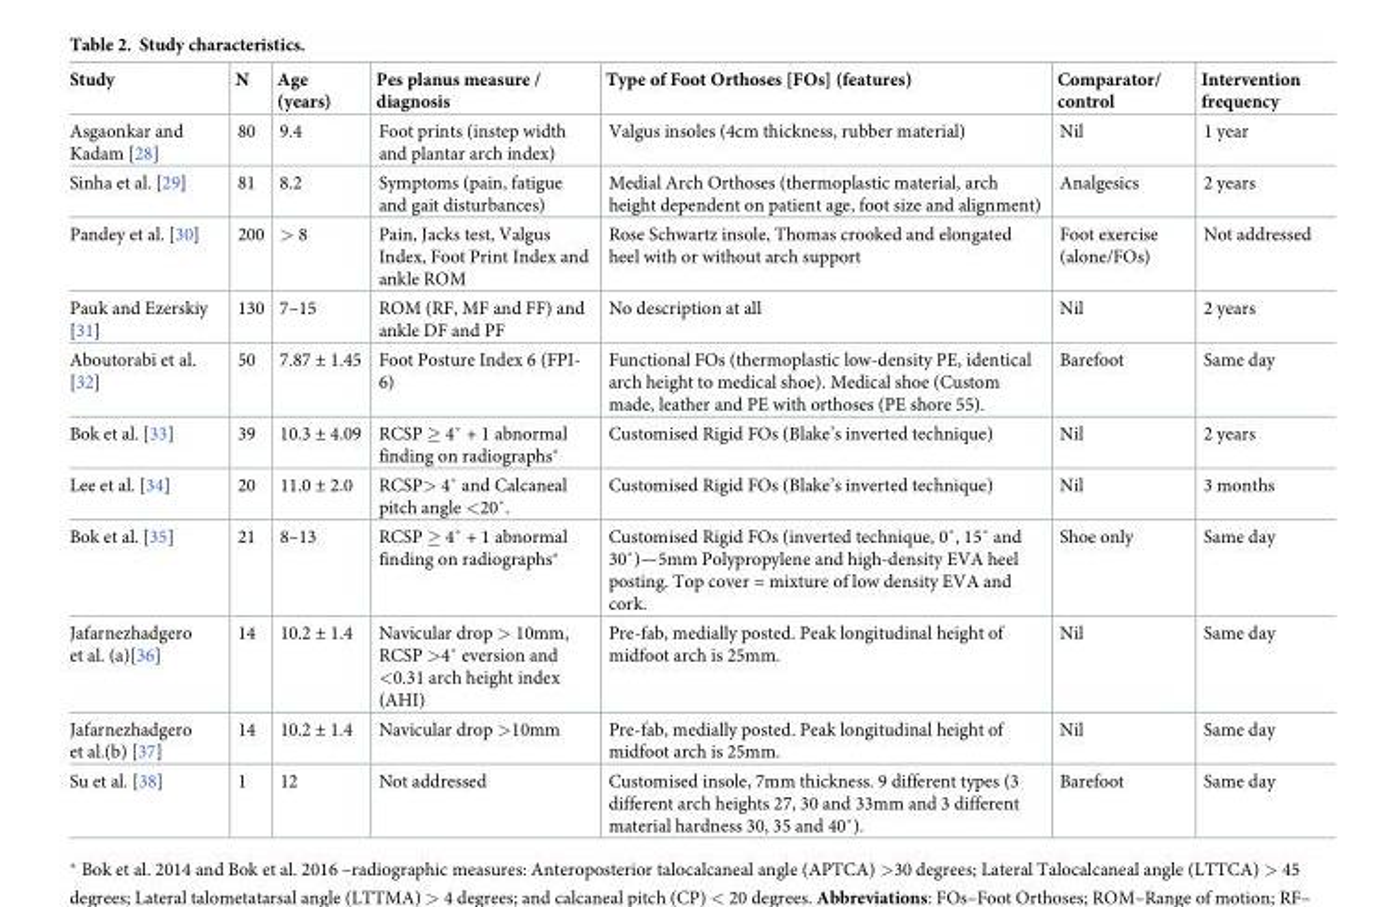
<table><thead><tr><td>Study</td><td>N</td><td>Age (years)</td><td>Pes planus measure / diagnosis</td><td>Type of Foot Orthoses [FOs] (features)</td><td>Comparator/ control</td><td>Intervention frequency</td></tr></thead><tbody><tr><td>Asgaonkar and Kadam [28]</td><td>80</td><td>9.4</td><td>Foot prints (instep width and plantar arch index)</td><td>Valgus insoles (4cm thickness, rubber material)</td><td>Nil</td><td>1 year</td></tr><tr><td>Sinha et al. [29]</td><td>81</td><td>8.2</td><td>Symptoms (pain, fatigue and gait disturbances)</td><td>Medial Arch Orthoses (thermoplastic material, arch height dependent on patient age, foot size and alignment)</td><td>Analgesics</td><td>2 years</td></tr><tr><td>Pandey et al. [30]</td><td>200</td><td>&gt; 8</td><td>Pain, Jacks test, Valgus Index, Foot Print Index and ankle ROM</td><td>Rose Schwartz insole, Thomas crooked and elongated heel with or without arch support</td><td>Foot exercise (alone/FOs)</td><td>Not addressed</td></tr><tr><td>Pauk and Ezerskiy [31]</td><td>130</td><td>7–15</td><td>ROM (RF, MF and FF) and ankle DF and PF</td><td>No description at all</td><td>Nil</td><td>2 years</td></tr><tr><td>Aboutorabi et al. [32]</td><td>50</td><td>7.87 ± 1.45</td><td>Foot Posture Index 6 (FPI- 6)</td><td>Functional FOs (thermoplastic low-density PE, identical arch height to medical shoe). Medical shoe (Custom made, leather and PE with orthoses (PE shore 55).</td><td>Barefoot</td><td>Same day</td></tr><tr><td>Bok et al. [33]</td><td>39</td><td>10.3 ± 4.09</td><td>RCSP ≥ 4˚ + 1 abnormal finding on radiographs*</td><td>Customised Rigid FOs (Blake’s inverted technique)</td><td>Nil</td><td>2 years</td></tr><tr><td>Lee et al. [34]</td><td>20</td><td>11.0 ± 2.0</td><td>RCSP&gt; 4˚ and Calcaneal pitch angle &lt;20˚.</td><td>Customised Rigid FOs (Blake’s inverted technique)</td><td>Nil</td><td>3 months</td></tr><tr><td>Bok et al. [35]</td><td>21</td><td>8–13</td><td>RCSP ≥ 4˚ + 1 abnormal finding on radiographs*</td><td>Customised Rigid FOs (inverted technique, 0˚, 15˚ and 30˚)—5mm Polypropylene and high-density EVA heel posting. Top cover = mixture of low density EVA and cork.</td><td>Shoe only</td><td>Same day</td></tr><tr><td>Jafarnezhadgero et al. (a)[36]</td><td>14</td><td>10.2 ± 1.4</td><td>Navicular drop &gt; 10mm, RCSP &gt;4˚ eversion and &lt;0.31 arch height index (AHI)</td><td>Pre-fab, medially posted. Peak longitudinal height of midfoot arch is 25mm.</td><td>Nil</td><td>Same day</td></tr><tr><td>Jafarnezhadgero et al.(b) [37]</td><td>14</td><td>10.2 ± 1.4</td><td>Navicular drop &gt;10mm</td><td>Pre-fab, medially posted. Peak longitudinal height of midfoot arch is 25mm.</td><td>Nil</td><td>Same day</td></tr><tr><td>Su et al. [38]</td><td>1</td><td>12</td><td>Not addressed</td><td>Customised insole, 7mm thickness. 9 different types (3 different arch heights 27, 30 and 33mm and 3 different material hardness 30, 35 and 40˚).</td><td>Barefoot</td><td>Same day</td></tr></tbody></table>